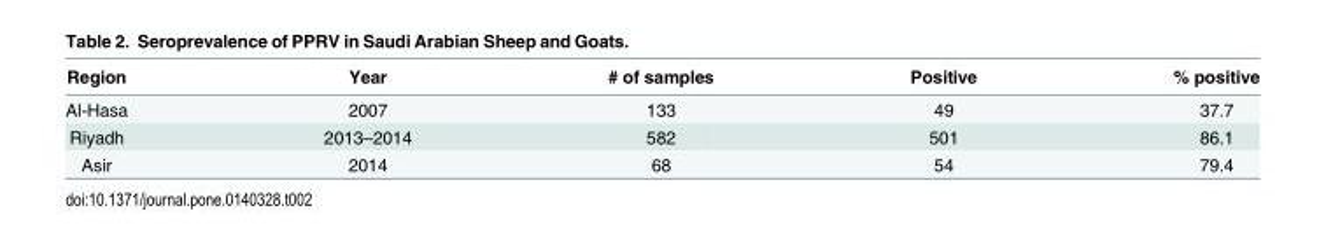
<table><thead><tr><td>Region</td><td>Year</td><td># of samples</td><td>Positive</td><td>% positive</td></tr></thead><tbody><tr><td>Al-Hasa</td><td>2007</td><td>133</td><td>49</td><td>37.7</td></tr><tr><td>Riyadh</td><td>2013–2014</td><td>582</td><td>501</td><td>86.1</td></tr><tr><td>Asir</td><td>2014</td><td>68</td><td>54</td><td>79.4</td></tr></tbody></table>